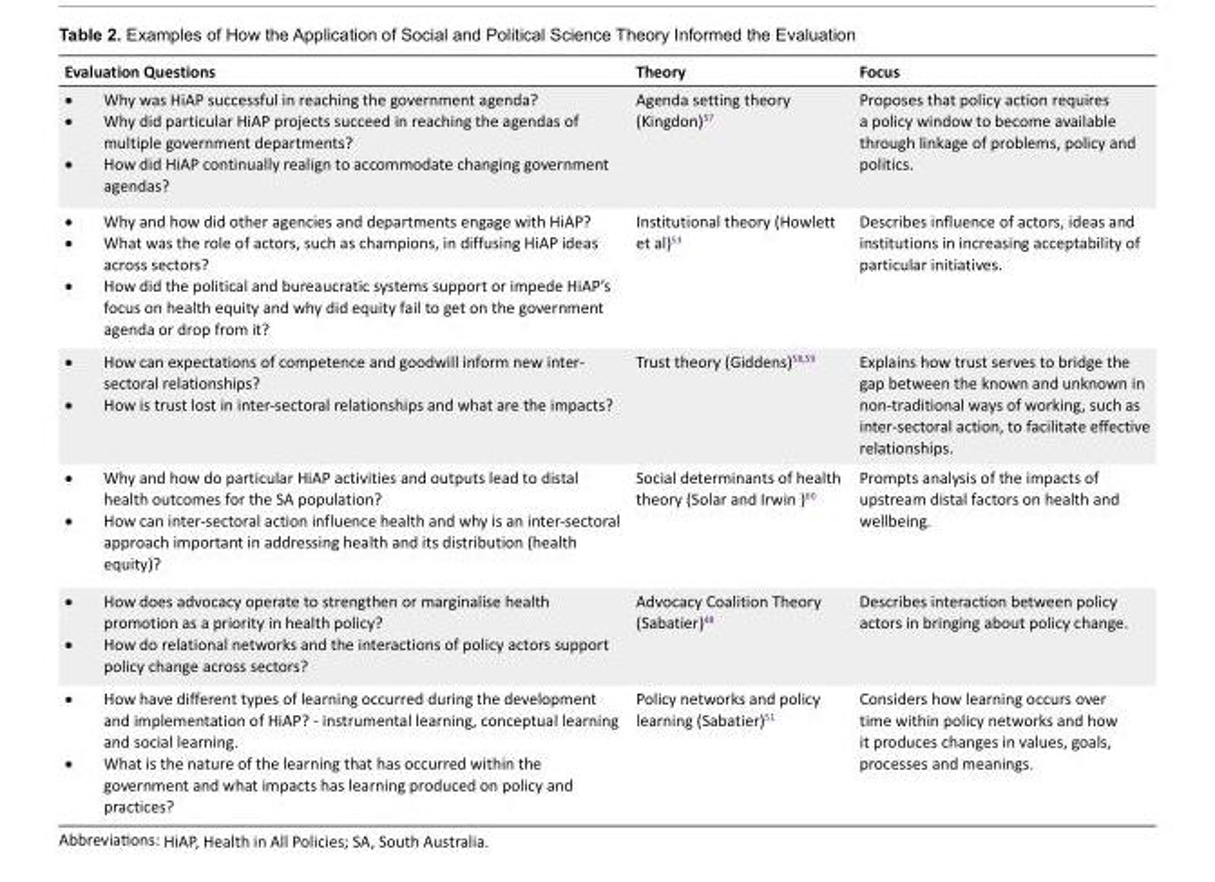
<table><tbody><tr><td>Evaluation Questions</td><td>Theory</td><td>Focus</td></tr><tr><td>• Why was HiAP successful in reaching the government agenda? • Why did particular HiAP projects succeed in reaching the agendas of multiple government departments? • How did HiAP continually realign to accommodate changing government agendas?</td><td>Agenda setting theory (Kingdon)<sup>57</sup></td><td>Proposes that policy action requires a policy window to become available through linkage of problems, policy and politics.</td></tr><tr><td>• Why and how did other agencies and departments engage with HiAP? • What was the role of actors, such as champions, in diffusing HiAP ideas across sectors? • How did the political and bureaucratic systems support or impede HiAP’s focus on health equity and why did equity fail to get on the government agenda or drop from it?</td><td>Institutional theory (Howlett et al)<sup>53</sup></td><td>Describes influence of actors, ideas and institutions in increasing acceptability of particular initiatives.</td></tr><tr><td>• How can expectations of competence and goodwill inform new inter- sectoral relationships? • How is trust lost in inter-sectoral relationships and what are the impacts?</td><td>Trust theory (Giddens)<sup>58,59</sup></td><td>Explains how trust serves to bridge the gap between the known and unknown in non-traditional ways of working, such as inter-sectoral action, to facilitate effective relationships.</td></tr><tr><td>• Why and how do particular HiAP activities and outputs lead to distal health outcomes for the SA population? • How can inter-sectoral action influence health and why is an inter-sectoral approach important in addressing health and its distribution (health equity)?</td><td>Social determinants of health theory (Solar and Irwin )<sup>60</sup></td><td>Prompts analysis of the impacts of upstream distal factors on health and wellbeing.</td></tr><tr><td>• How does advocacy operate to strengthen or marginalise health promotion as a priority in health policy? • How do relational networks and the interactions of policy actors support policy change across sectors?</td><td>Advocacy Coalition Theory (Sabatier)<sup>48</sup></td><td>Describes interaction between policy actors in bringing about policy change.</td></tr><tr><td>• How have different types of learning occurred during the development and implementation of HiAP? - instrumental learning, conceptual learning and social learning. • What is the nature of the learning that has occurred within the government and what impacts has learning produced on policy and practices?</td><td>Policy networks and policy learning (Sabatier)<sup>51</sup></td><td>Considers how learning occurs over time within policy networks and how it produces changes in values, goals, processes and meanings.</td></tr></tbody></table>